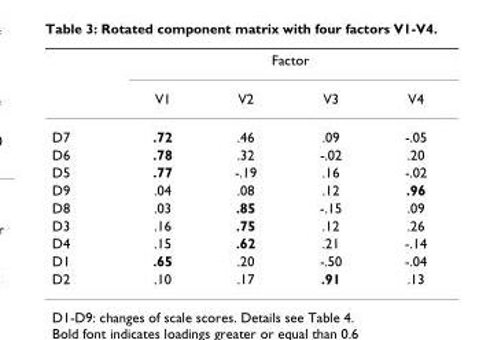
<table><thead><tr><td rowspan="2"></td><td colspan="4">Factor</td></tr><tr><td>V1</td><td>V2</td><td>V3</td><td>V4</td></tr></thead><tbody><tr><td>D7</td><td>.72</td><td>.46</td><td>.09</td><td>-.05</td></tr><tr><td>D6</td><td>.78</td><td>.32</td><td>-.02</td><td>.20</td></tr><tr><td>D5</td><td>.77</td><td>-.19</td><td>.16</td><td>-.02</td></tr><tr><td>D9</td><td>.04</td><td>.08</td><td>.12</td><td>.96</td></tr><tr><td>D8</td><td>.03</td><td>.85</td><td>-.15</td><td>.09</td></tr><tr><td>D3</td><td>.16</td><td>.75</td><td>.12</td><td>.26</td></tr><tr><td>D4</td><td>.15</td><td>.62</td><td>.21</td><td>-.14</td></tr><tr><td>D1</td><td>.65</td><td>.20</td><td>-.50</td><td>-.04</td></tr><tr><td>D2</td><td>.10</td><td>.17</td><td>.91</td><td>.13</td></tr></tbody></table>